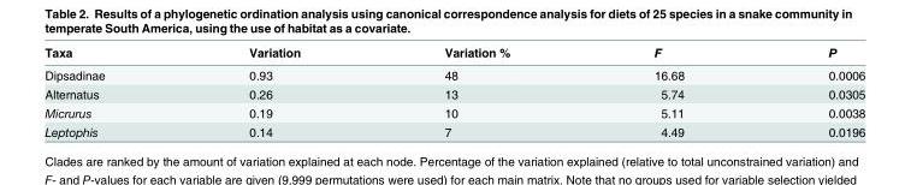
<table><thead><tr><td>Taxa</td><td>Variation</td><td>Variation %</td><td>F</td><td>P</td></tr></thead><tbody><tr><td>Dipsadinae</td><td>0.93</td><td>48</td><td>16.68</td><td>0.0006</td></tr><tr><td>Alternatus</td><td>0.26</td><td>13</td><td>5.74</td><td>0.0305</td></tr><tr><td>Micrurus</td><td>0.19</td><td>10</td><td>5.11</td><td>0.0038</td></tr><tr><td>Leptophis</td><td>0.14</td><td>7</td><td>4.49</td><td>0.0196</td></tr></tbody></table>